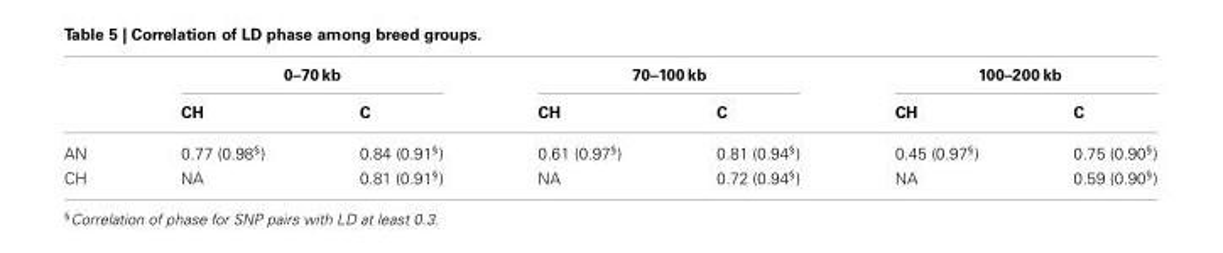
<table><thead><tr><td rowspan="2"></td><td colspan="2">0–70 kb</td><td colspan="2">70–100 kb</td><td colspan="2">100–200 kb</td></tr><tr><td>CH</td><td>C</td><td>CH</td><td>C</td><td>CH</td><td>C</td></tr></thead><tbody><tr><td>AN</td><td>0.77 (0.98<sup>§</sup>)</td><td>0.84 (0.91<sup>§</sup>)</td><td>0.61 (0.97<sup>§</sup>)</td><td>0.81 (0.94<sup>§</sup>)</td><td>0.45 (0.97<sup>§</sup>)</td><td>0.75 (0.90<sup>§</sup>)</td></tr><tr><td>CH</td><td>NA</td><td>0.81 (0.91<sup>§</sup>)</td><td>NA</td><td>0.72 (0.94<sup>§</sup>)</td><td>NA</td><td>0.59 (0.90<sup>§</sup>)</td></tr></tbody></table>